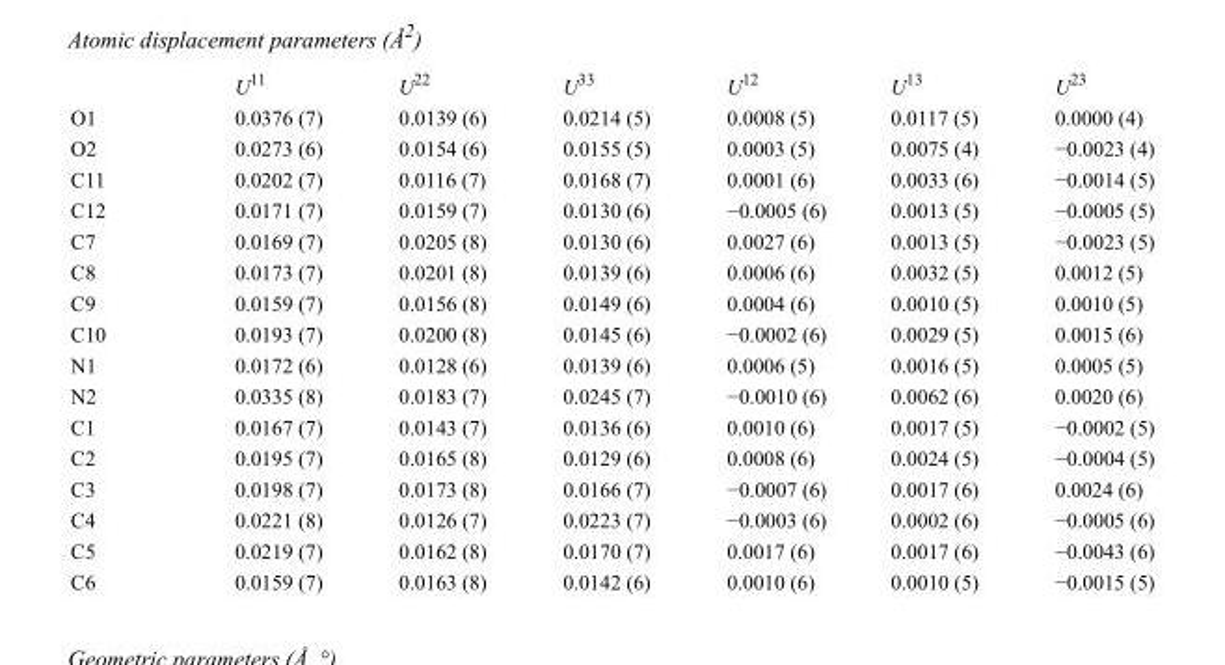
<table><thead><tr><td></td><td>U<sup>11</sup></td><td>U<sup>22</sup></td><td>U<sup>33</sup></td><td>U<sup>12</sup></td><td>U<sup>13</sup></td><td>U<sup>23</sup></td></tr></thead><tbody><tr><td>O1</td><td>0.0376 (7)</td><td>0.0139 (6)</td><td>0.0214 (5)</td><td>0.0008 (5)</td><td>0.0117 (5)</td><td>0.0000 (4)</td></tr><tr><td>O2</td><td>0.0273 (6)</td><td>0.0154 (6)</td><td>0.0155 (5)</td><td>0.0003 (5)</td><td>0.0075 (4)</td><td>−0.0023 (4)</td></tr><tr><td>C11</td><td>0.0202 (7)</td><td>0.0116 (7)</td><td>0.0168 (7)</td><td>0.0001 (6)</td><td>0.0033 (6)</td><td>−0.0014 (5)</td></tr><tr><td>C12</td><td>0.0171 (7)</td><td>0.0159 (7)</td><td>0.0130 (6)</td><td>−0.0005 (6)</td><td>0.0013 (5)</td><td>−0.0005 (5)</td></tr><tr><td>C7</td><td>0.0169 (7)</td><td>0.0205 (8)</td><td>0.0130 (6)</td><td>0.0027 (6)</td><td>0.0013 (5)</td><td>−0.0023 (5)</td></tr><tr><td>C8</td><td>0.0173 (7)</td><td>0.0201 (8)</td><td>0.0139 (6)</td><td>0.0006 (6)</td><td>0.0032 (5)</td><td>0.0012 (5)</td></tr><tr><td>C9</td><td>0.0159 (7)</td><td>0.0156 (8)</td><td>0.0149 (6)</td><td>0.0004 (6)</td><td>0.0010 (5)</td><td>0.0010 (5)</td></tr><tr><td>C10</td><td>0.0193 (7)</td><td>0.0200 (8)</td><td>0.0145 (6)</td><td>−0.0002 (6)</td><td>0.0029 (5)</td><td>0.0015 (6)</td></tr><tr><td>N1</td><td>0.0172 (6)</td><td>0.0128 (6)</td><td>0.0139 (6)</td><td>0.0006 (5)</td><td>0.0016 (5)</td><td>0.0005 (5)</td></tr><tr><td>N2</td><td>0.0335 (8)</td><td>0.0183 (7)</td><td>0.0245 (7)</td><td>−0.0010 (6)</td><td>0.0062 (6)</td><td>0.0020 (6)</td></tr><tr><td>C1</td><td>0.0167 (7)</td><td>0.0143 (7)</td><td>0.0136 (6)</td><td>0.0010 (6)</td><td>0.0017 (5)</td><td>−0.0002 (5)</td></tr><tr><td>C2</td><td>0.0195 (7)</td><td>0.0165 (8)</td><td>0.0129 (6)</td><td>0.0008 (6)</td><td>0.0024 (5)</td><td>−0.0004 (5)</td></tr><tr><td>C3</td><td>0.0198 (7)</td><td>0.0173 (8)</td><td>0.0166 (7)</td><td>−0.0007 (6)</td><td>0.0017 (6)</td><td>0.0024 (6)</td></tr><tr><td>C4</td><td>0.0221 (8)</td><td>0.0126 (7)</td><td>0.0223 (7)</td><td>−0.0003 (6)</td><td>0.0002 (6)</td><td>−0.0005 (6)</td></tr><tr><td>C5</td><td>0.0219 (7)</td><td>0.0162 (8)</td><td>0.0170 (7)</td><td>0.0017 (6)</td><td>0.0017 (6)</td><td>−0.0043 (6)</td></tr><tr><td>C6</td><td>0.0159 (7)</td><td>0.0163 (8)</td><td>0.0142 (6)</td><td>0.0010 (6)</td><td>0.0010 (5)</td><td>−0.0015 (5)</td></tr></tbody></table>